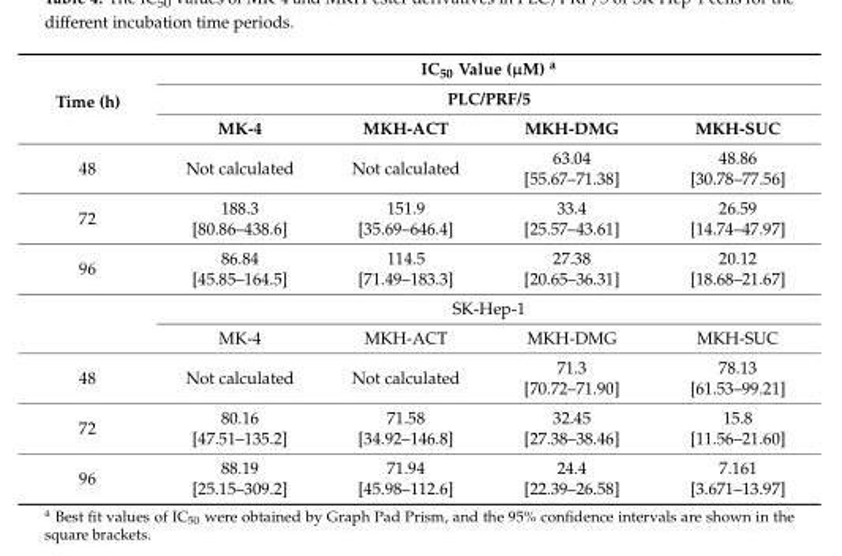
<table><thead><tr><td rowspan="3">Time (h)</td><td rowspan="2" colspan="4">IC<sub>50</sub> Value (µM) <sup>a</sup> PLC/PRF/5</td></tr><tr></tr><tr><td>MK-4</td><td>MKH-ACT</td><td>MKH-DMG</td><td>MKH-SUC</td></tr></thead><tbody><tr><td>48</td><td>Not calculated</td><td>Not calculated</td><td>63.04 [55.67–71.38]</td><td>48.86 [30.78–77.56]</td></tr><tr><td>72</td><td>188.3 [80.86–438.6]</td><td>151.9 [35.69–646.4]</td><td>33.4 [25.57–43.61]</td><td>26.59 [14.74–47.97]</td></tr><tr><td rowspan="3">96</td><td>86.84 [45.85–164.5]</td><td>114.5 [71.49–183.3]</td><td>27.38 [20.65–36.31]</td><td>20.12 [18.68–21.67]</td></tr><tr><td colspan="4">SK-Hep-1</td></tr><tr><td>MK-4</td><td>MKH-ACT</td><td>MKH-DMG</td><td>MKH-SUC</td></tr><tr><td>48</td><td>Not calculated</td><td>Not calculated</td><td>71.3 [70.72–71.90]</td><td>78.13 [61.53–99.21]</td></tr><tr><td>72</td><td>80.16 [47.51–135.2]</td><td>71.58 [34.92–146.8]</td><td>32.45 [27.38–38.46]</td><td>15.8 [11.56–21.60]</td></tr><tr><td>96</td><td>88.19 [25.15–309.2]</td><td>71.94 [45.98–112.6]</td><td>24.4 [22.39–26.58]</td><td>7.161 [3.671–13.97]</td></tr></tbody></table>